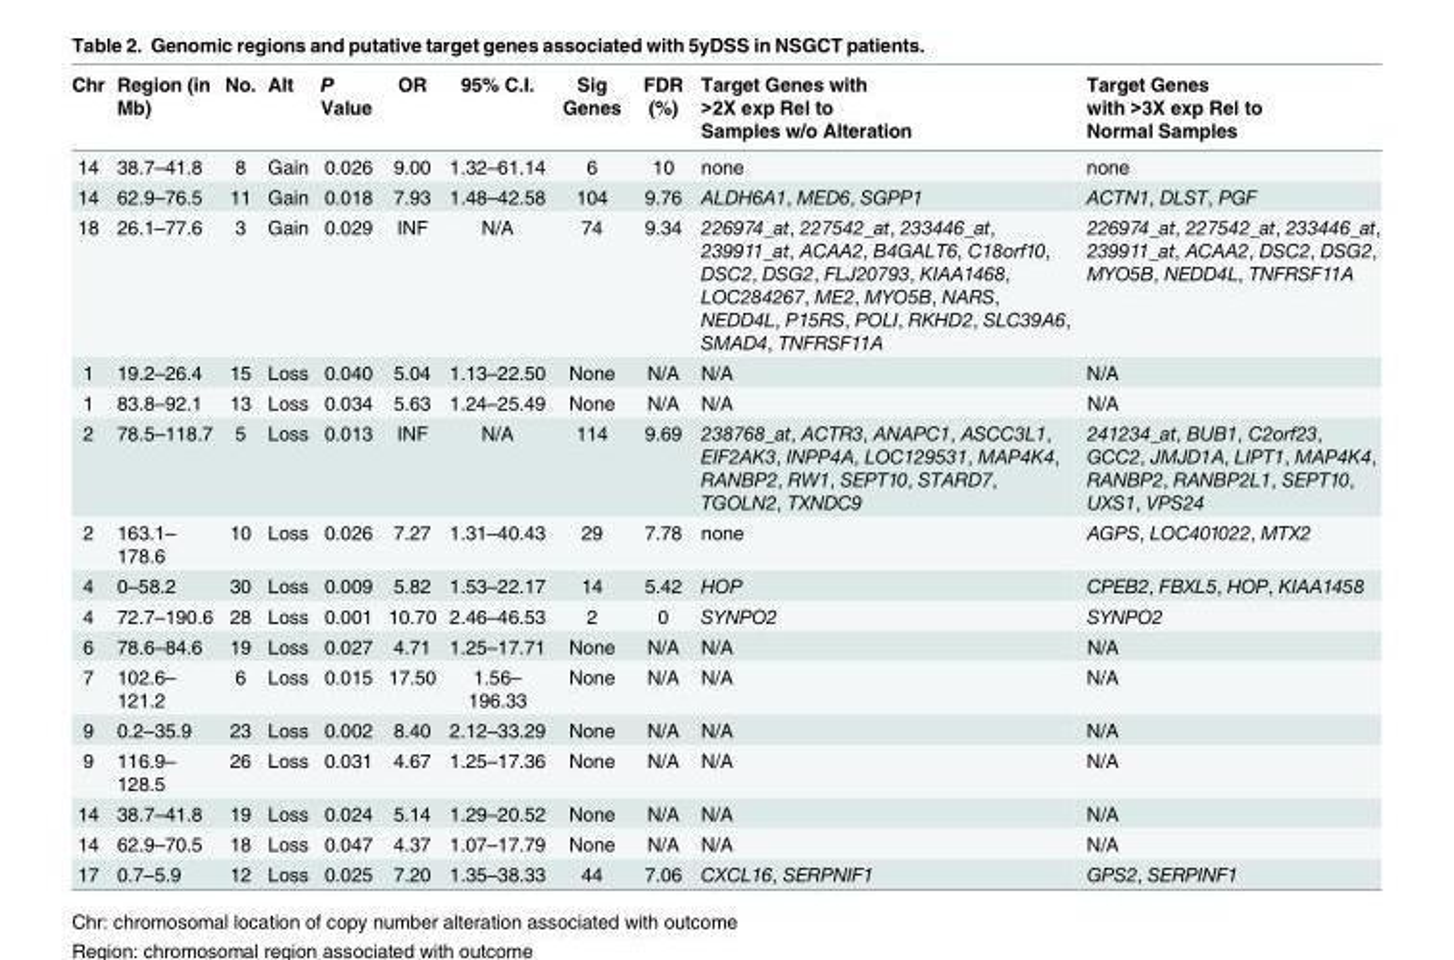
<table><thead><tr><td>Chr</td><td>Region (in Mb)</td><td>No.</td><td>Alt</td><td>P Value</td><td>OR</td><td>95% C.I.</td><td>Sig Genes</td><td>FDR (%)</td><td>Target Genes with &gt;2X exp Rel to Samples w/o Alteration</td><td>Target Genes with &gt;3X exp Rel to Normal Samples</td></tr></thead><tbody><tr><td>14</td><td>38.7–41.8</td><td>8</td><td>Gain</td><td>0.026</td><td>9.00</td><td>1.32–61.14</td><td>6</td><td>10</td><td>none</td><td>none</td></tr><tr><td>14</td><td>62.9–76.5</td><td>11</td><td>Gain</td><td>0.018</td><td>7.93</td><td>1.48–42.58</td><td>104</td><td>9.76</td><td>ALDH6A1, MED6, SGPP1</td><td>ACTN1, DLST, PGF</td></tr><tr><td>18</td><td>26.1–77.6</td><td>3</td><td>Gain</td><td>0.029</td><td>INF</td><td>N/A</td><td>74</td><td>9.34</td><td>226974_at, 227542_at, 233446_at, 239911_at, ACAA2, B4GALT6, C18orf10, DSC2, DSG2, FLJ20793, KIAA1468, LOC284267, ME2, MYO5B, NARS, NEDD4L, P15RS, POLI, RKHD2, SLC39A6, SMAD4, TNFRSF11A</td><td>226974_at, 227542_at, 233446_at, 239911_at, ACAA2, DSC2, DSG2, MYO5B, NEDD4L, TNFRSF11A</td></tr><tr><td>1</td><td>19.2–26.4</td><td>15</td><td>Loss</td><td>0.040</td><td>5.04</td><td>1.13–22.50</td><td>None</td><td>N/A</td><td>N/A</td><td>N/A</td></tr><tr><td>1</td><td>83.8–92.1</td><td>13</td><td>Loss</td><td>0.034</td><td>5.63</td><td>1.24–25.49</td><td>None</td><td>N/A</td><td>N/A</td><td>N/A</td></tr><tr><td>2</td><td>78.5–118.7</td><td>5</td><td>Loss</td><td>0.013</td><td>INF</td><td>N/A</td><td>114</td><td>9.69</td><td>238768_at, ACTR3, ANAPC1, ASCC3L1, EIF2AK3, INPP4A, LOC129531, MAP4K4, RANBP2, RW1, SEPT10, STARD7, TGOLN2, TXNDC9</td><td>241234_at, BUB1, C2orf23, GCC2, JMJD1A, LIPT1, MAP4K4, RANBP2, RANBP2L1, SEPT10, UXS1, VPS24</td></tr><tr><td>2</td><td>163.1– 178.6</td><td>10</td><td>Loss</td><td>0.026</td><td>7.27</td><td>1.31–40.43</td><td>29</td><td>7.78</td><td>none</td><td>AGPS, LOC401022, MTX2</td></tr><tr><td>4</td><td>0–58.2</td><td>30</td><td>Loss</td><td>0.009</td><td>5.82</td><td>1.53–22.17</td><td>14</td><td>5.42</td><td>HOP</td><td>CPEB2, FBXL5, HOP, KIAA1458</td></tr><tr><td>4</td><td>72.7–190.6</td><td>28</td><td>Loss</td><td>0.001</td><td>10.70</td><td>2.46–46.53</td><td>2</td><td>0</td><td>SYNPO2</td><td>SYNPO2</td></tr><tr><td>6</td><td>78.6–84.6</td><td>19</td><td>Loss</td><td>0.027</td><td>4.71</td><td>1.25–17.71</td><td>None</td><td>N/A</td><td>N/A</td><td>N/A</td></tr><tr><td>7</td><td>102.6– 121.2</td><td>6</td><td>Loss</td><td>0.015</td><td>17.50</td><td>1.56– 196.33</td><td>None</td><td>N/A</td><td>N/A</td><td>N/A</td></tr><tr><td>9</td><td>0.2–35.9</td><td>23</td><td>Loss</td><td>0.002</td><td>8.40</td><td>2.12–33.29</td><td>None</td><td>N/A</td><td>N/A</td><td>N/A</td></tr><tr><td>9</td><td>116.9– 128.5</td><td>26</td><td>Loss</td><td>0.031</td><td>4.67</td><td>1.25–17.36</td><td>None</td><td>N/A</td><td>N/A</td><td>N/A</td></tr><tr><td>14</td><td>38.7–41.8</td><td>19</td><td>Loss</td><td>0.024</td><td>5.14</td><td>1.29–20.52</td><td>None</td><td>N/A</td><td>N/A</td><td>N/A</td></tr><tr><td>14</td><td>62.9–70.5</td><td>18</td><td>Loss</td><td>0.047</td><td>4.37</td><td>1.07–17.79</td><td>None</td><td>N/A</td><td>N/A</td><td>N/A</td></tr><tr><td>17</td><td>0.7–5.9</td><td>12</td><td>Loss</td><td>0.025</td><td>7.20</td><td>1.35–38.33</td><td>44</td><td>7.06</td><td>CXCL16, SERPNIF1</td><td>GPS2, SERPINF1</td></tr></tbody></table>